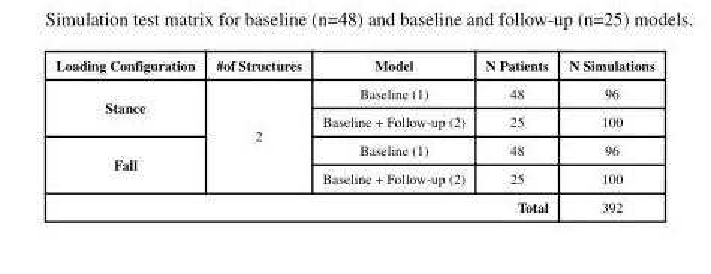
<table><thead><tr><td>Loading Configuration</td><td>#of Structures</td><td>Model</td><td>N Patients</td><td>N Simulations</td></tr></thead><tbody><tr><td rowspan="2">Stance</td><td rowspan="4">2</td><td>Baseline (1)</td><td>48</td><td>96</td></tr><tr><td>Baseline + Follow-up (2)</td><td>25</td><td>100</td></tr><tr><td rowspan="2">Fall</td><td>Baseline (1)</td><td>48</td><td>96</td></tr><tr><td>Baseline + Follow-up (2)</td><td>25</td><td>100</td></tr><tr><td colspan="4">Total</td><td>392</td></tr></tbody></table>